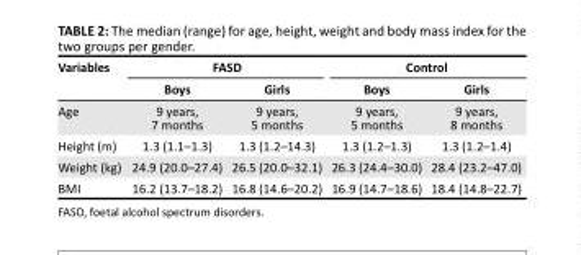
<table><thead><tr><td rowspan="2">Variables</td><td colspan="2">FASD</td><td colspan="2">Control</td></tr><tr><td>Boys</td><td>Girls</td><td>Boys</td><td>Girls</td></tr></thead><tbody><tr><td>Age</td><td>9 years, 7 months</td><td>9 years, 5 months</td><td>9 years, 5 months</td><td>9 years, 8 months</td></tr><tr><td>Height (m)</td><td>1.3 (1.1–1.3)</td><td>1.3 (1.2–14.3)</td><td>1.3 (1.2–1.3)</td><td>1.3 (1.2–1.4)</td></tr><tr><td>Weight (kg)</td><td>24.9 (20.0–27.4)</td><td>26.5 (20.0–32.1)</td><td>26.3 (24.4–30.0)</td><td>28.4 (23.2–47.0)</td></tr><tr><td>BMI</td><td>16.2 (13.7–18.2)</td><td>16.8 (14.6–20.2)</td><td>16.9 (14.7–18.6)</td><td>18.4 (14.8–22.7)</td></tr></tbody></table>